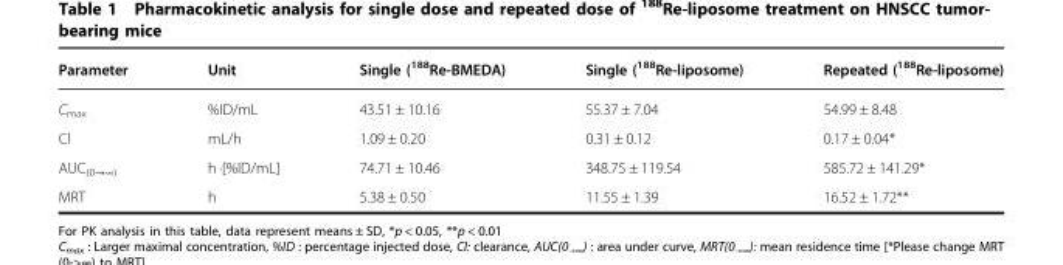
<table><thead><tr><td>Parameter</td><td>Unit</td><td>Single (<sup>188</sup>Re-BMEDA)</td><td>Single (<sup>188</sup>Re-liposome)</td><td>Repeated (<sup>188</sup>Re-liposome)</td></tr></thead><tbody><tr><td>C<sub>max</sub></td><td>%ID/mL</td><td>43.51 ± 10.16</td><td>55.37 ± 7.04</td><td>54.99 ± 8.48</td></tr><tr><td>Cl</td><td>mL/h</td><td>1.09 ± 0.20</td><td>0.31 ± 0.12</td><td>0.17 ± 0.04*</td></tr><tr><td>AUC<sub>(0→∞)</sub></td><td>h ·[%ID/mL]</td><td>74.71 ± 10.46</td><td>348.75 ± 119.54</td><td>585.72 ± 141.29*</td></tr><tr><td>MRT</td><td>h</td><td>5.38 ± 0.50</td><td>11.55 ± 1.39</td><td>16.52 ± 1.72**</td></tr></tbody></table>